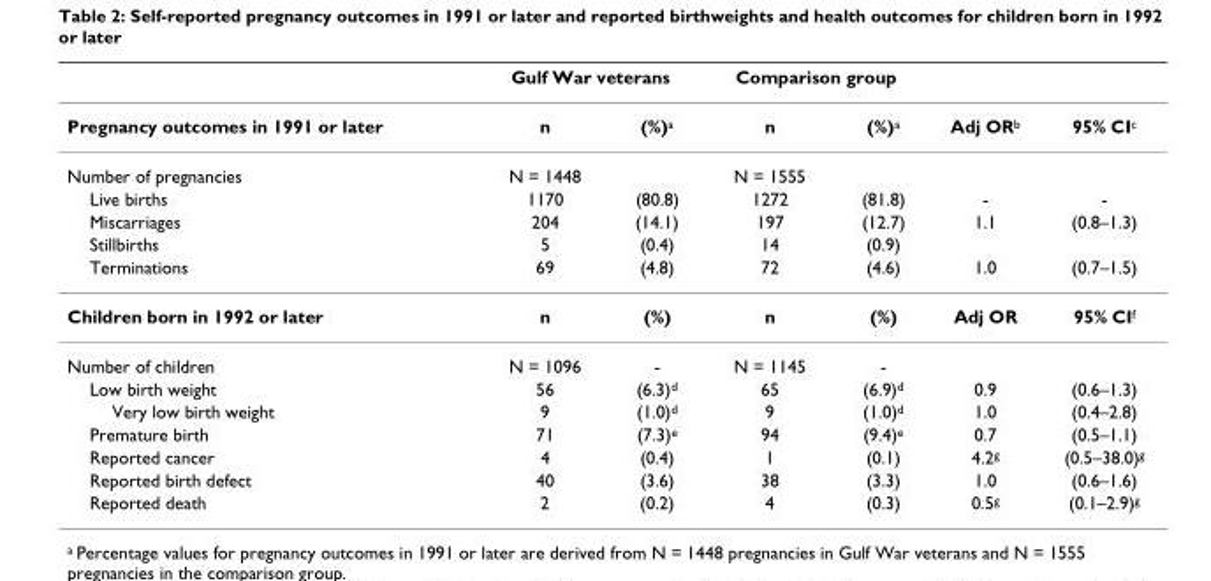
<table><thead><tr><td rowspan="2">Pregnancy outcomes in 1991 or later</td><td colspan="2">Gulf War veterans</td><td colspan="2">Comparison group</td><td rowspan="2">Adj OR<sup>b</sup></td><td rowspan="2">95% CI<sup>c</sup></td></tr><tr><td>n</td><td>(%)<sup>a</sup></td><td>n</td><td>(%)<sup>a</sup></td></tr></thead><tbody><tr><td>Number of pregnancies</td><td>N = 1448</td><td></td><td>N = 1555</td><td></td><td></td><td></td></tr><tr><td>Live births</td><td>1170</td><td>(80.8)</td><td>1272</td><td>(81.8)</td><td>-</td><td>-</td></tr><tr><td>Miscarriages</td><td>204</td><td>(14.1)</td><td>197</td><td>(12.7)</td><td>1.1</td><td>(0.8–1.3)</td></tr><tr><td>Stillbirths</td><td>5</td><td>(0.4)</td><td>14</td><td>(0.9)</td><td></td><td></td></tr><tr><td>Terminations</td><td>69</td><td>(4.8)</td><td>72</td><td>(4.6)</td><td>1.0</td><td>(0.7–1.5)</td></tr><tr><td>Children born in 1992 or later</td><td>n</td><td>(%)</td><td>n</td><td>(%)</td><td>Adj OR</td><td>95% CI<sup>f</sup></td></tr><tr><td>Number of children</td><td>N = 1096</td><td>-</td><td>N = 1145</td><td>-</td><td></td><td></td></tr><tr><td>Low birth weight</td><td>56</td><td>(6.3)<sup>d</sup></td><td>65</td><td>(6.9)<sup>d</sup></td><td>0.9</td><td>(0.6–1.3)</td></tr><tr><td>Very low birth weight</td><td>9</td><td>(1.0)<sup>d</sup></td><td>9</td><td>(1.0)<sup>d</sup></td><td>1.0</td><td>(0.4–2.8)</td></tr><tr><td>Premature birth</td><td>71</td><td>(7.3)<sup>e</sup></td><td>94</td><td>(9.4)<sup>e</sup></td><td>0.7</td><td>(0.5–1.1)</td></tr><tr><td>Reported cancer</td><td>4</td><td>(0.4)</td><td>1</td><td>(0.1)</td><td>4.2<sup>g</sup></td><td>(0.5–38.0)<sup>g</sup></td></tr><tr><td>Reported birth defect</td><td>40</td><td>(3.6)</td><td>38</td><td>(3.3)</td><td>1.0</td><td>(0.6–1.6)</td></tr><tr><td>Reported death</td><td>2</td><td>(0.2)</td><td>4</td><td>(0.3)</td><td>0.5<sup>g</sup></td><td>(0.1–2.9)<sup>g</sup></td></tr></tbody></table>